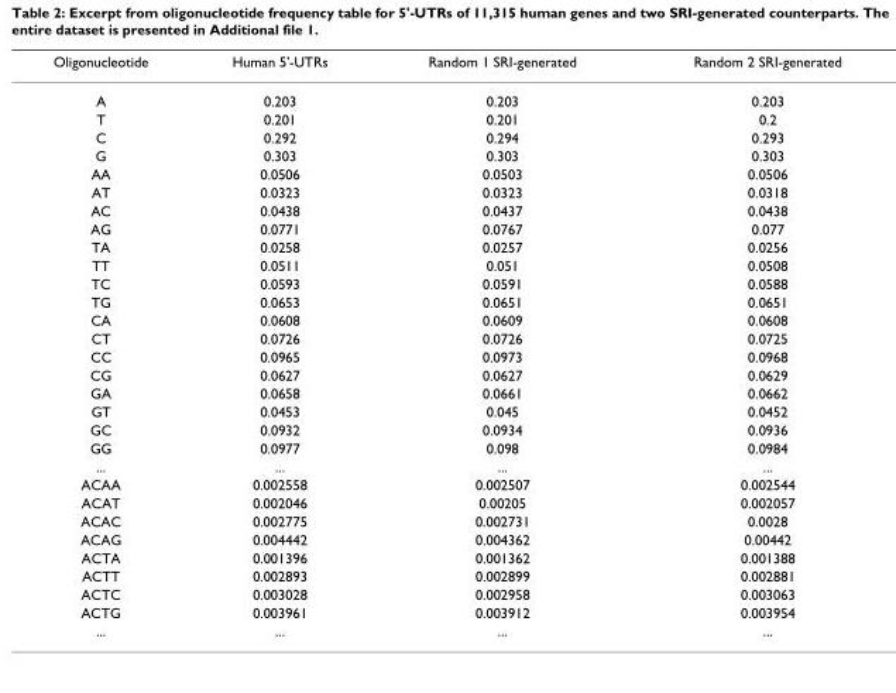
<table><thead><tr><td>Oligonucleotide</td><td>Human 5&#x27;-UTRs</td><td>Random 1 SRI-generated</td><td>Random 2 SRI-generated</td></tr></thead><tbody><tr><td>A</td><td>0.203</td><td>0.203</td><td>0.203</td></tr><tr><td>T</td><td>0.201</td><td>0.201</td><td>0.2</td></tr><tr><td>C</td><td>0.292</td><td>0.294</td><td>0.293</td></tr><tr><td>G</td><td>0.303</td><td>0.303</td><td>0.303</td></tr><tr><td>AA</td><td>0.0506</td><td>0.0503</td><td>0.0506</td></tr><tr><td>AT</td><td>0.0323</td><td>0.0323</td><td>0.0318</td></tr><tr><td>AC</td><td>0.0438</td><td>0.0437</td><td>0.0438</td></tr><tr><td>AG</td><td>0.0771</td><td>0.0767</td><td>0.077</td></tr><tr><td>TA</td><td>0.0258</td><td>0.0257</td><td>0.0256</td></tr><tr><td>TT</td><td>0.0511</td><td>0.051</td><td>0.0508</td></tr><tr><td>TC</td><td>0.0593</td><td>0.0591</td><td>0.0588</td></tr><tr><td>TG</td><td>0.0653</td><td>0.0651</td><td>0.0651</td></tr><tr><td>CA</td><td>0.0608</td><td>0.0609</td><td>0.0608</td></tr><tr><td>CT</td><td>0.0726</td><td>0.0726</td><td>0.0725</td></tr><tr><td>CC</td><td>0.0965</td><td>0.0973</td><td>0.0968</td></tr><tr><td>CG</td><td>0.0627</td><td>0.0627</td><td>0.0629</td></tr><tr><td>GA</td><td>0.0658</td><td>0.0661</td><td>0.0662</td></tr><tr><td>GT</td><td>0.0453</td><td>0.045</td><td>0.0452</td></tr><tr><td>GC</td><td>0.0932</td><td>0.0934</td><td>0.0936</td></tr><tr><td>GG</td><td>0.0977</td><td>0.098</td><td>0.0984</td></tr><tr><td>...</td><td>...</td><td>...</td><td>...</td></tr><tr><td>ACAA</td><td>0.002558</td><td>0.002507</td><td>0.002544</td></tr><tr><td>ACAT</td><td>0.002046</td><td>0.00205</td><td>0.002057</td></tr><tr><td>ACAC</td><td>0.002775</td><td>0.002731</td><td>0.0028</td></tr><tr><td>ACAG</td><td>0.004442</td><td>0.004362</td><td>0.00442</td></tr><tr><td>ACTA</td><td>0.001396</td><td>0.001362</td><td>0.001388</td></tr><tr><td>ACTT</td><td>0.002893</td><td>0.002899</td><td>0.002881</td></tr><tr><td>ACTC</td><td>0.003028</td><td>0.002958</td><td>0.003063</td></tr><tr><td>ACTG</td><td>0.003961</td><td>0.003912</td><td>0.003954</td></tr><tr><td>...</td><td>...</td><td>...</td><td>...</td></tr></tbody></table>